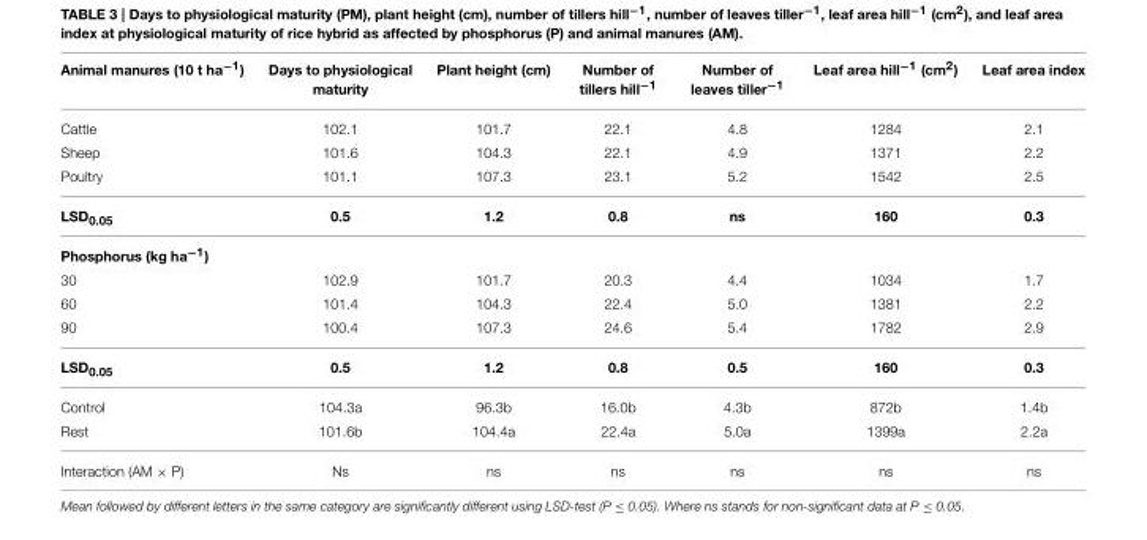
<table><thead><tr><td>Animal manures (10 t ha<sup>−1</sup>)</td><td>Days to physiological maturity</td><td>Plant height (cm)</td><td>Number of tillers hill<sup>−1</sup></td><td>Number of leaves tiller<sup>−1</sup></td><td>Leaf area hill<sup>−1</sup> (cm<sup>2</sup>)</td><td>Leaf area index</td></tr></thead><tbody><tr><td>Cattle</td><td>102.1</td><td>101.7</td><td>22.1</td><td>4.8</td><td>1284</td><td>2.1</td></tr><tr><td>Sheep</td><td>101.6</td><td>104.3</td><td>22.1</td><td>4.9</td><td>1371</td><td>2.2</td></tr><tr><td>Poultry</td><td>101.1</td><td>107.3</td><td>23.1</td><td>5.2</td><td>1542</td><td>2.5</td></tr><tr><td>LSD<sub>0.05</sub></td><td>0.5</td><td>1.2</td><td>0.8</td><td>ns</td><td>160</td><td>0.3</td></tr><tr><td colspan="7">Phosphorus (kg ha<sup>−1</sup>)</td></tr><tr><td>30</td><td>102.9</td><td>101.7</td><td>20.3</td><td>4.4</td><td>1034</td><td>1.7</td></tr><tr><td>60</td><td>101.4</td><td>104.3</td><td>22.4</td><td>5.0</td><td>1381</td><td>2.2</td></tr><tr><td>90</td><td>100.4</td><td>107.3</td><td>24.6</td><td>5.4</td><td>1782</td><td>2.9</td></tr><tr><td>LSD<sub>0.05</sub></td><td>0.5</td><td>1.2</td><td>0.8</td><td>0.5</td><td>160</td><td>0.3</td></tr><tr><td>Control</td><td>104.3a</td><td>96.3b</td><td>16.0b</td><td>4.3b</td><td>872b</td><td>1.4b</td></tr><tr><td>Rest</td><td>101.6b</td><td>104.4a</td><td>22.4a</td><td>5.0a</td><td>1399a</td><td>2.2a</td></tr><tr><td>Interaction (AM × P)</td><td>Ns</td><td>ns</td><td>ns</td><td>ns</td><td>ns</td><td>ns</td></tr></tbody></table>